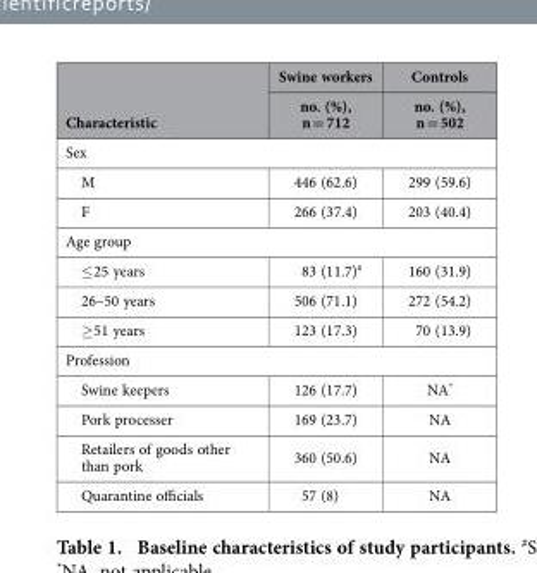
<table><thead><tr><td rowspan="2">Characteristic</td><td rowspan="2">Swine workers no. (%), n = 712</td><td rowspan="2">Controls no. (%), n = 502</td></tr><tr></tr></thead><tbody><tr><td colspan="3">Sex</td></tr><tr><td>M</td><td>446 (62.6)</td><td>299 (59.6)</td></tr><tr><td>F</td><td>266 (37.4)</td><td>203 (40.4)</td></tr><tr><td colspan="3">Age group</td></tr><tr><td>≤ 25 years</td><td>83 (11.7)#</td><td>160 (31.9)</td></tr><tr><td>26–50 years</td><td>506 (71.1)</td><td>272 (54.2)</td></tr><tr><td>≥ 51 years</td><td>123 (17.3)</td><td>70 (13.9)</td></tr><tr><td colspan="3">Profession</td></tr><tr><td>Swine keepers</td><td>126 (17.7)</td><td>NA*</td></tr><tr><td>Pork processer</td><td>169 (23.7)</td><td>NA</td></tr><tr><td>Retailers of goods other than pork</td><td>360 (50.6)</td><td>NA</td></tr><tr><td>Quarantine officials</td><td>57 (8)</td><td>NA</td></tr></tbody></table>